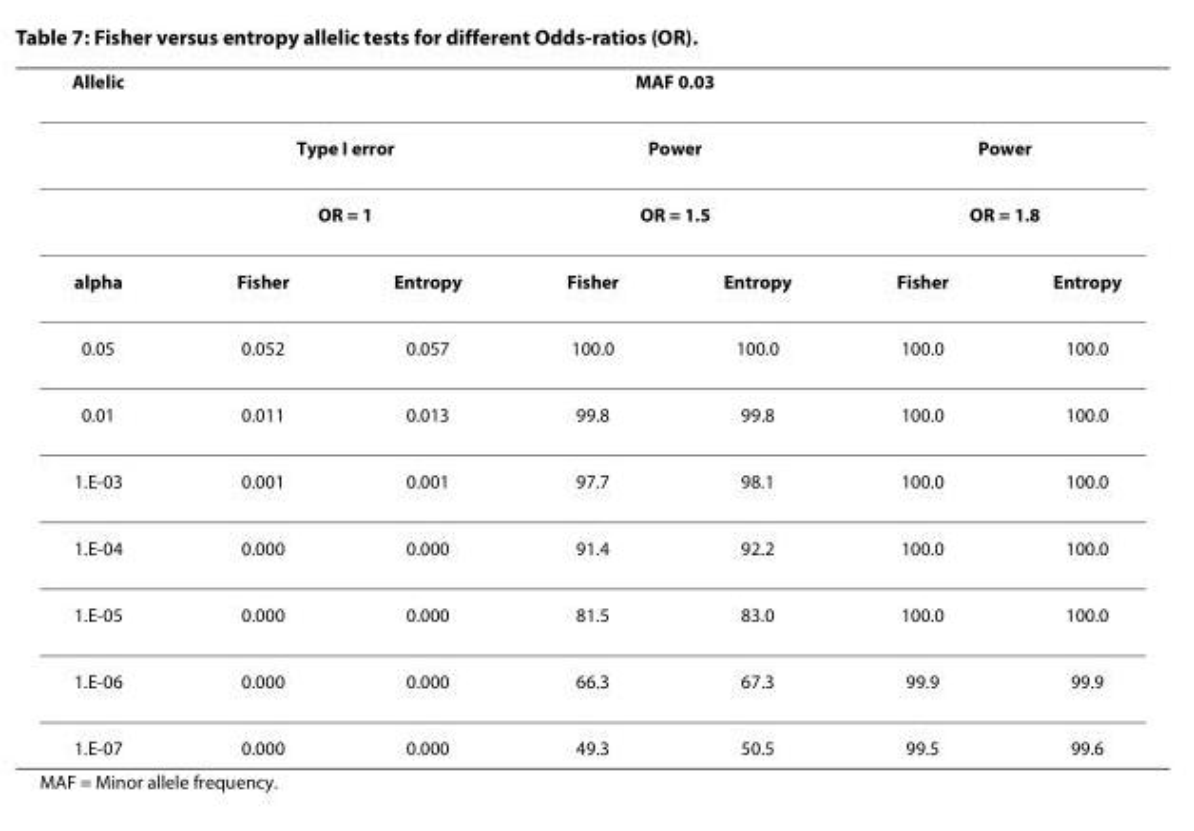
<table><thead><tr><td rowspan="4">Allelic alpha</td><td colspan="6">MAF 0.03</td></tr><tr><td rowspan="2" colspan="2">Type I error OR = 1</td><td rowspan="2" colspan="2">Power OR = 1.5</td><td rowspan="2" colspan="2">Power OR = 1.8</td></tr><tr></tr><tr><td>Fisher</td><td>Entropy</td><td>Fisher</td><td>Entropy</td><td>Fisher</td><td>Entropy</td></tr></thead><tbody><tr><td>0.05</td><td>0.052</td><td>0.057</td><td>100.0</td><td>100.0</td><td>100.0</td><td>100.0</td></tr><tr><td>0.01</td><td>0.011</td><td>0.013</td><td>99.8</td><td>99.8</td><td>100.0</td><td>100.0</td></tr><tr><td>1.E-03</td><td>0.001</td><td>0.001</td><td>97.7</td><td>98.1</td><td>100.0</td><td>100.0</td></tr><tr><td>1.E-04</td><td>0.000</td><td>0.000</td><td>91.4</td><td>92.2</td><td>100.0</td><td>100.0</td></tr><tr><td>1.E-05</td><td>0.000</td><td>0.000</td><td>81.5</td><td>83.0</td><td>100.0</td><td>100.0</td></tr><tr><td>1.E-06</td><td>0.000</td><td>0.000</td><td>66.3</td><td>67.3</td><td>99.9</td><td>99.9</td></tr><tr><td>1.E-07</td><td>0.000</td><td>0.000</td><td>49.3</td><td>50.5</td><td>99.5</td><td>99.6</td></tr></tbody></table>